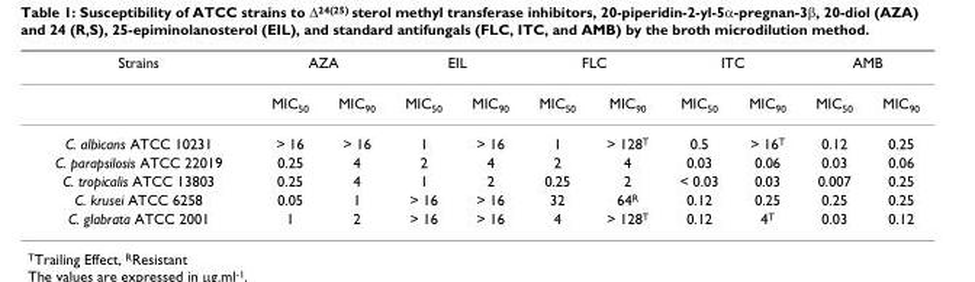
<table><thead><tr><td rowspan="2">Strains</td><td colspan="2">AZA</td><td colspan="2">EIL</td><td colspan="2">FLC</td><td colspan="2">ITC</td><td colspan="2">AMB</td></tr><tr><td>MIC<sub>50</sub></td><td>MIC<sub>90</sub></td><td>MIC<sub>50</sub></td><td>MIC<sub>90</sub></td><td>MIC<sub>50</sub></td><td>MIC<sub>90</sub></td><td>MIC<sub>50</sub></td><td>MIC<sub>90</sub></td><td>MIC<sub>50</sub></td><td>MIC<sub>90</sub></td></tr></thead><tbody><tr><td>C. albicans ATCC 10231</td><td>&gt; 16</td><td>&gt; 16</td><td>1</td><td>&gt; 16</td><td>1</td><td>&gt; 128<sup>T</sup></td><td>0.5</td><td>&gt; 16<sup>T</sup></td><td>0.12</td><td>0.25</td></tr><tr><td>C. parapsilosis ATCC 22019</td><td>0.25</td><td>4</td><td>2</td><td>4</td><td>2</td><td>4</td><td>0.03</td><td>0.06</td><td>0.03</td><td>0.06</td></tr><tr><td>C. tropicalis ATCC 13803</td><td>0.25</td><td>4</td><td>1</td><td>2</td><td>0.25</td><td>2</td><td>&lt; 0.03</td><td>0.03</td><td>0.007</td><td>0.25</td></tr><tr><td>C. krusei ATCC 6258</td><td>0.05</td><td>1</td><td>&gt; 16</td><td>&gt; 16</td><td>32</td><td>64<sup>R</sup></td><td>0.12</td><td>0.25</td><td>0.25</td><td>0.25</td></tr><tr><td>C. glabrata ATCC 2001</td><td>1</td><td>2</td><td>&gt; 16</td><td>&gt; 16</td><td>4</td><td>&gt; 128<sup>T</sup></td><td>0.12</td><td>4<sup>T</sup></td><td>0.03</td><td>0.12</td></tr></tbody></table>